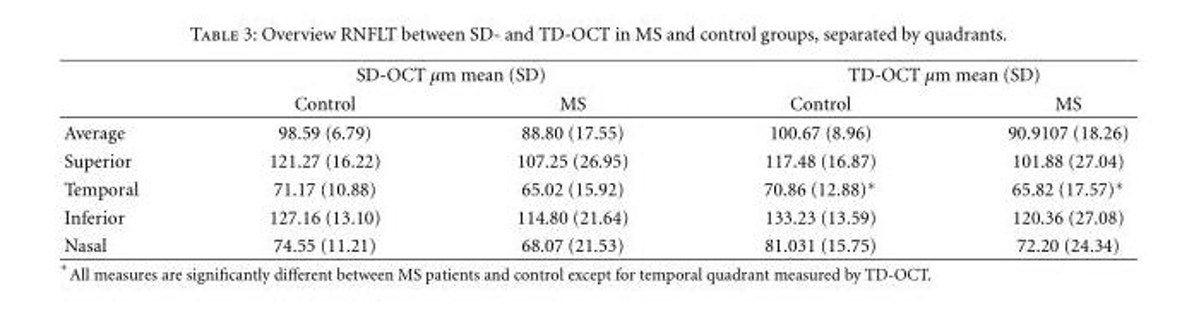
<table><thead><tr><td rowspan="2"></td><td colspan="2">SD-OCT µm mean (SD)</td><td colspan="2">TD-OCT µm mean (SD)</td></tr><tr><td>Control</td><td>MS</td><td>Control</td><td>MS</td></tr></thead><tbody><tr><td>Average</td><td>98.59 (6.79)</td><td>88.80 (17.55)</td><td>100.67 (8.96)</td><td>90.9107 (18.26)</td></tr><tr><td>Superior</td><td>121.27 (16.22)</td><td>107.25 (26.95)</td><td>117.48 (16.87)</td><td>101.88 (27.04)</td></tr><tr><td>Temporal</td><td>71.17 (10.88)</td><td>65.02 (15.92)</td><td>70.86 (12.88)∗</td><td>65.82 (17.57)∗</td></tr><tr><td>Inferior</td><td>127.16 (13.10)</td><td>114.80 (21.64)</td><td>133.23 (13.59)</td><td>120.36 (27.08)</td></tr><tr><td>Nasal</td><td>74.55 (11.21)</td><td>68.07 (21.53)</td><td>81.031 (15.75)</td><td>72.20 (24.34)</td></tr></tbody></table>